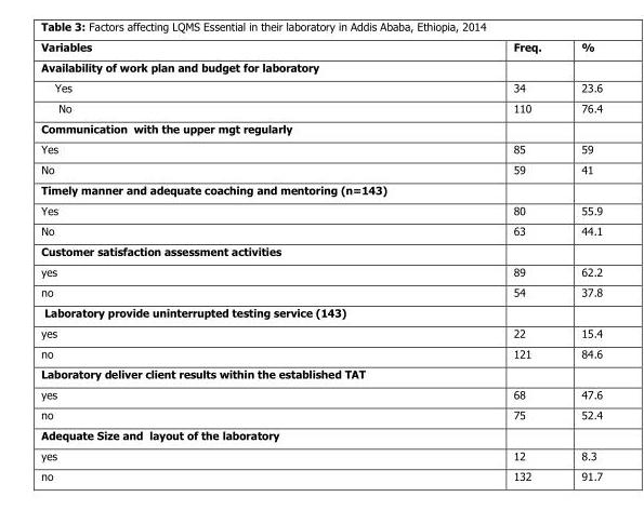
<table><thead><tr><td>Variables</td><td>Freq.</td><td>%</td></tr></thead><tbody><tr><td colspan="3">Availability of work plan and budget for laboratory</td></tr><tr><td>Yes</td><td>34</td><td>23.6</td></tr><tr><td>No</td><td>110</td><td>76.4</td></tr><tr><td colspan="3">Communication with the upper mgt regularly</td></tr><tr><td>Yes</td><td>85</td><td>59</td></tr><tr><td>No</td><td>59</td><td>41</td></tr><tr><td colspan="3">Timely manner and adequate coaching and mentoring (n=143)</td></tr><tr><td>Yes</td><td>80</td><td>55.9</td></tr><tr><td>No</td><td>63</td><td>44.1</td></tr><tr><td colspan="3">Customer satisfaction assessment activities</td></tr><tr><td>yes</td><td>89</td><td>62.2</td></tr><tr><td>no</td><td>54</td><td>37.8</td></tr><tr><td colspan="3">Laboratory provide uninterrupted testing service (143)</td></tr><tr><td>yes</td><td>22</td><td>15.4</td></tr><tr><td>no</td><td>121</td><td>84.6</td></tr><tr><td colspan="3">Laboratory deliver client results within the established TAT</td></tr><tr><td>yes</td><td>68</td><td>47.6</td></tr><tr><td>no</td><td>75</td><td>52.4</td></tr><tr><td colspan="3">Adequate Size and layout of the laboratory</td></tr><tr><td>yes</td><td>12</td><td>8.3</td></tr><tr><td>no</td><td>132</td><td>91.7</td></tr></tbody></table>